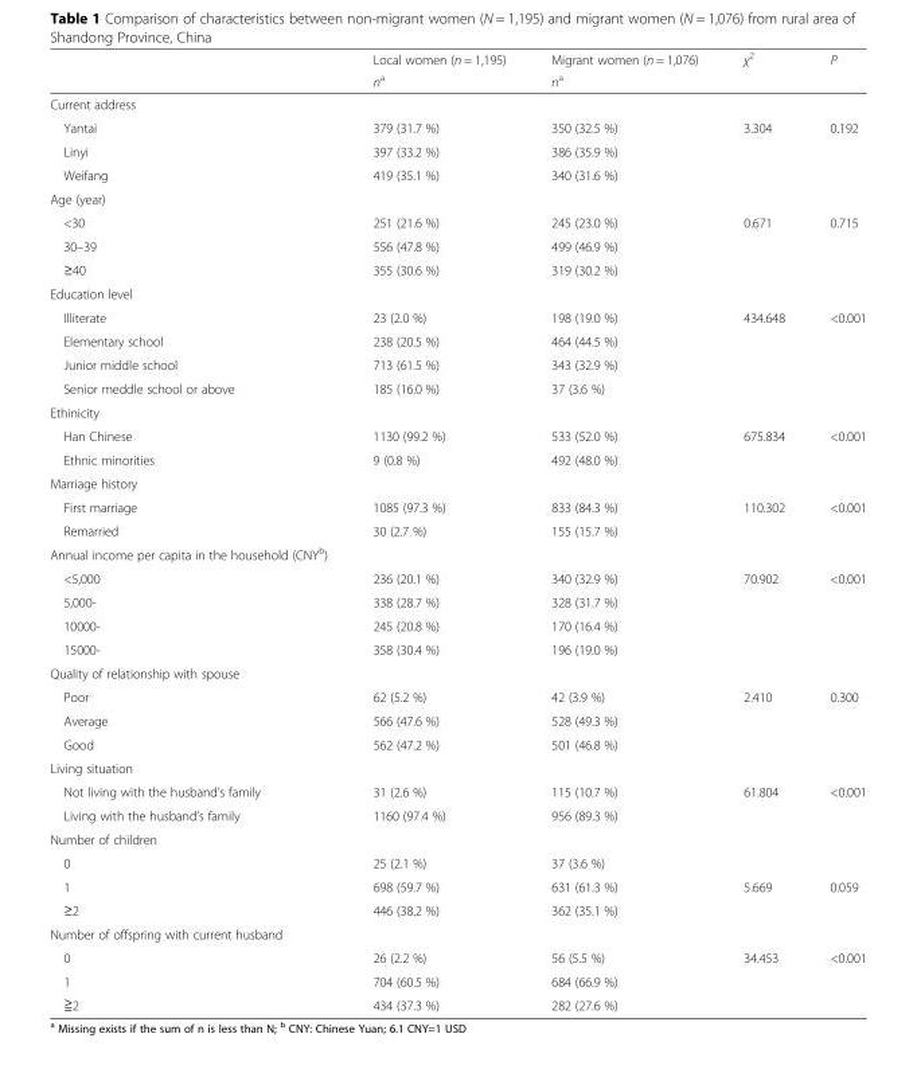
<table><thead><tr><td rowspan="2"></td><td rowspan="2">Local women (n = 1,195) n<sup>a</sup></td><td rowspan="2">Migrant women (n = 1,076) n<sup>a</sup></td><td rowspan="2">χ<sup>2</sup></td><td rowspan="2">P</td></tr><tr></tr></thead><tbody><tr><td colspan="5">Current address</td></tr><tr><td>Yantai</td><td>379 (31.7 %)</td><td>350 (32.5 %)</td><td>3.304</td><td>0.192</td></tr><tr><td>Linyi</td><td>397 (33.2 %)</td><td>386 (35.9 %)</td><td></td><td></td></tr><tr><td>Weifang</td><td>419 (35.1 %)</td><td>340 (31.6 %)</td><td></td><td></td></tr><tr><td colspan="5">Age (year)</td></tr><tr><td>&lt;30</td><td>251 (21.6 %)</td><td>245 (23.0 %)</td><td>0.671</td><td>0.715</td></tr><tr><td>30–39</td><td>556 (47.8 %)</td><td>499 (46.9 %)</td><td></td><td></td></tr><tr><td>≥40</td><td>355 (30.6 %)</td><td>319 (30.2 %)</td><td></td><td></td></tr><tr><td colspan="5">Education level</td></tr><tr><td>Illiterate</td><td>23 (2.0 %)</td><td>198 (19.0 %)</td><td>434.648</td><td>&lt;0.001</td></tr><tr><td>Elementary school</td><td>238 (20.5 %)</td><td>464 (44.5 %)</td><td></td><td></td></tr><tr><td>Junior middle school</td><td>713 (61.5 %)</td><td>343 (32.9 %)</td><td></td><td></td></tr><tr><td>Senior meddle school or above</td><td>185 (16.0 %)</td><td>37 (3.6 %)</td><td></td><td></td></tr><tr><td colspan="5">Ethinicity</td></tr><tr><td>Han Chinese</td><td>1130 (99.2 %)</td><td>533 (52.0 %)</td><td>675.834</td><td>&lt;0.001</td></tr><tr><td>Ethnic minorities</td><td>9 (0.8 %)</td><td>492 (48.0 %)</td><td></td><td></td></tr><tr><td colspan="5">Marriage history</td></tr><tr><td>First marriage</td><td>1085 (97.3 %)</td><td>833 (84.3 %)</td><td>110.302</td><td>&lt;0.001</td></tr><tr><td>Remarried</td><td>30 (2.7 %)</td><td>155 (15.7 %)</td><td></td><td></td></tr><tr><td colspan="5">Annual income per capita in the household (CNY<sup>b</sup>)</td></tr><tr><td>&lt;5,000</td><td>236 (20.1 %)</td><td>340 (32.9 %)</td><td>70.902</td><td>&lt;0.001</td></tr><tr><td>5,000-</td><td>338 (28.7 %)</td><td>328 (31.7 %)</td><td></td><td></td></tr><tr><td>10000-</td><td>245 (20.8 %)</td><td>170 (16.4 %)</td><td></td><td></td></tr><tr><td>15000-</td><td>358 (30.4 %)</td><td>196 (19.0 %)</td><td></td><td></td></tr><tr><td colspan="5">Quality of relationship with spouse</td></tr><tr><td>Poor</td><td>62 (5.2 %)</td><td>42 (3.9 %)</td><td>2.410</td><td>0.300</td></tr><tr><td>Average</td><td>566 (47.6 %)</td><td>528 (49.3 %)</td><td></td><td></td></tr><tr><td>Good</td><td>562 (47.2 %)</td><td>501 (46.8 %)</td><td></td><td></td></tr><tr><td colspan="5">Living situation</td></tr><tr><td>Not living with the husband’s family</td><td>31 (2.6 %)</td><td>115 (10.7 %)</td><td>61.804</td><td>&lt;0.001</td></tr><tr><td>Living with the husband’s family</td><td>1160 (97.4 %)</td><td>956 (89.3 %)</td><td></td><td></td></tr><tr><td colspan="5">Number of children</td></tr><tr><td>0</td><td>25 (2.1 %)</td><td>37 (3.6 %)</td><td></td><td></td></tr><tr><td>1</td><td>698 (59.7 %)</td><td>631 (61.3 %)</td><td>5.669</td><td>0.059</td></tr><tr><td>≥2</td><td>446 (38.2 %)</td><td>362 (35.1 %)</td><td></td><td></td></tr><tr><td colspan="5">Number of offspring with current husband</td></tr><tr><td>0</td><td>26 (2.2 %)</td><td>56 (5.5 %)</td><td>34.453</td><td>&lt;0.001</td></tr><tr><td>1</td><td>704 (60.5 %)</td><td>684 (66.9 %)</td><td></td><td></td></tr><tr><td>≧2</td><td>434 (37.3 %)</td><td>282 (27.6 %)</td><td></td><td></td></tr></tbody></table>